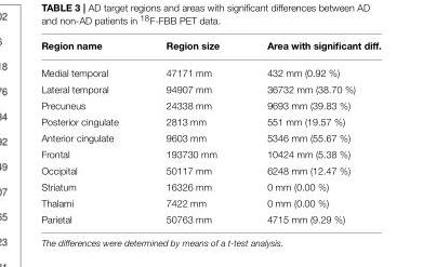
<table><thead><tr><td>Region name</td><td>Region size</td><td>Area with significant diff.</td></tr></thead><tbody><tr><td>Medial temporal</td><td>47171 mm</td><td>432 mm (0.92 %)</td></tr><tr><td>Lateral temporal</td><td>94907 mm</td><td>36732 mm (38.70 %)</td></tr><tr><td>Precuneus</td><td>24338 mm</td><td>9693 mm (39.83 %)</td></tr><tr><td>Posterior cingulate</td><td>2813 mm</td><td>551 mm (19.57 %)</td></tr><tr><td>Anterior cingulate</td><td>9603 mm</td><td>5346 mm (55.67 %)</td></tr><tr><td>Frontal</td><td>193730 mm</td><td>10424 mm (5.38 %)</td></tr><tr><td>Occipital</td><td>50117 mm</td><td>6248 mm (12.47 %)</td></tr><tr><td>Striatum</td><td>16326 mm</td><td>0 mm (0.00 %)</td></tr><tr><td>Thalami</td><td>7422 mm</td><td>0 mm (0.00 %)</td></tr><tr><td>Parietal</td><td>50763 mm</td><td>4715 mm (9.29 %)</td></tr></tbody></table>